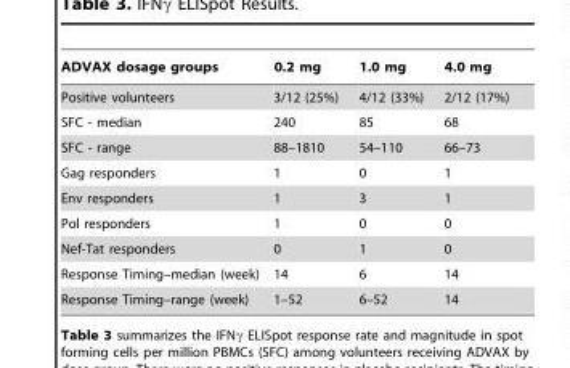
<table><thead><tr><td>ADVAX dosage groups</td><td>0.2 mg</td><td>1.0 mg</td><td>4.0 mg</td></tr></thead><tbody><tr><td>Positive volunteers</td><td>3/12 (25%)</td><td>4/12 (33%)</td><td>2/12 (17%)</td></tr><tr><td>SFC - median</td><td>240</td><td>85</td><td>68</td></tr><tr><td>SFC - range</td><td>88–1810</td><td>54–110</td><td>66–73</td></tr><tr><td>Gag responders</td><td>1</td><td>0</td><td>1</td></tr><tr><td>Env responders</td><td>1</td><td>3</td><td>1</td></tr><tr><td>Pol responders</td><td>1</td><td>0</td><td>0</td></tr><tr><td>Nef-Tat responders</td><td>0</td><td>1</td><td>0</td></tr><tr><td>Response Timing–median (week)</td><td>14</td><td>6</td><td>14</td></tr><tr><td>Response Timing–range (week)</td><td>1–52</td><td>6–52</td><td>14</td></tr></tbody></table>